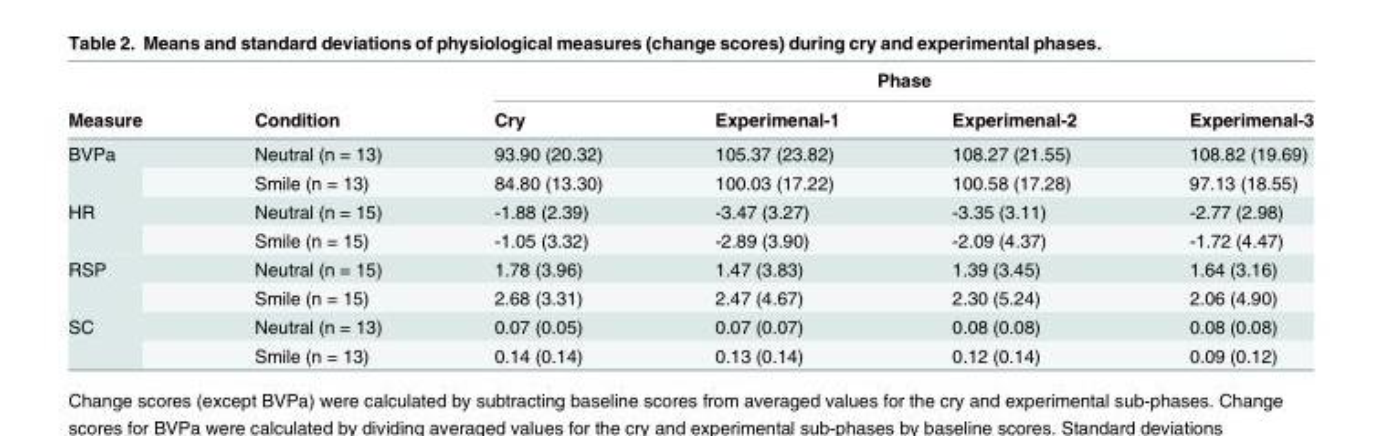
<table><thead><tr><td rowspan="2">Measure</td><td rowspan="2">Condition</td><td colspan="4">Phase</td></tr><tr><td>Cry</td><td>Experimenal-1</td><td>Experimenal-2</td><td>Experimenal-3</td></tr></thead><tbody><tr><td rowspan="2">BVPa</td><td>Neutral (n = 13)</td><td>93.90 (20.32)</td><td>105.37 (23.82)</td><td>108.27 (21.55)</td><td>108.82 (19.69)</td></tr><tr><td>Smile (n = 13)</td><td>84.80 (13.30)</td><td>100.03 (17.22)</td><td>100.58 (17.28)</td><td>97.13 (18.55)</td></tr><tr><td rowspan="2">HR</td><td>Neutral (n = 15)</td><td>-1.88 (2.39)</td><td>-3.47 (3.27)</td><td>-3.35 (3.11)</td><td>-2.77 (2.98)</td></tr><tr><td>Smile (n = 15)</td><td>-1.05 (3.32)</td><td>-2.89 (3.90)</td><td>-2.09 (4.37)</td><td>-1.72 (4.47)</td></tr><tr><td rowspan="2">RSP</td><td>Neutral (n = 15)</td><td>1.78 (3.96)</td><td>1.47 (3.83)</td><td>1.39 (3.45)</td><td>1.64 (3.16)</td></tr><tr><td>Smile (n = 15)</td><td>2.68 (3.31)</td><td>2.47 (4.67)</td><td>2.30 (5.24)</td><td>2.06 (4.90)</td></tr><tr><td rowspan="2">SC</td><td>Neutral (n = 13)</td><td>0.07 (0.05)</td><td>0.07 (0.07)</td><td>0.08 (0.08)</td><td>0.08 (0.08)</td></tr><tr><td>Smile (n = 13)</td><td>0.14 (0.14)</td><td>0.13 (0.14)</td><td>0.12 (0.14)</td><td>0.09 (0.12)</td></tr></tbody></table>